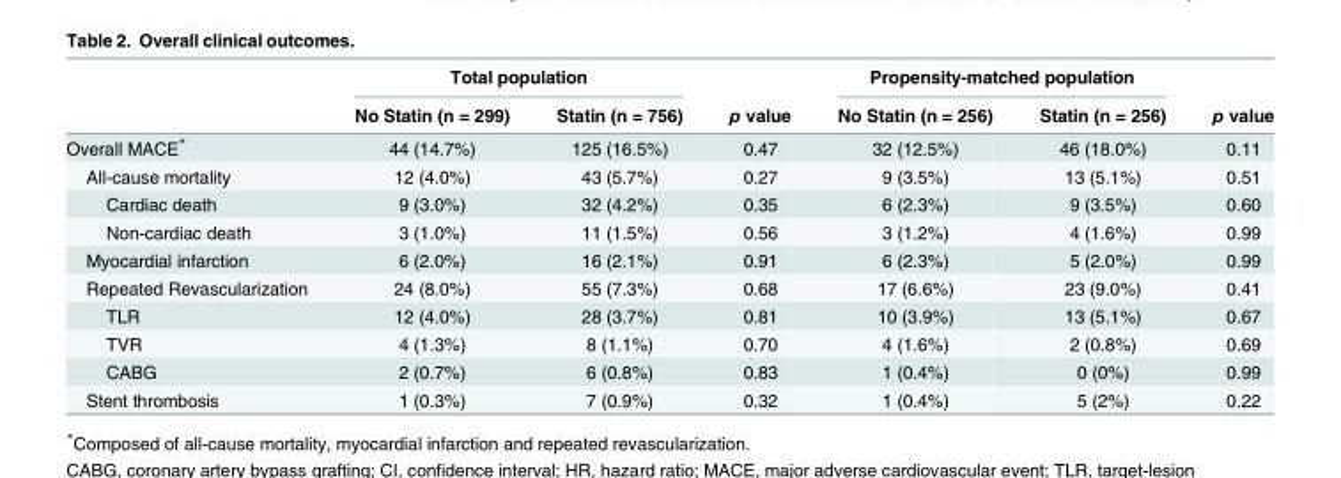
<table><thead><tr><td rowspan="2"></td><td colspan="2">Total population</td><td rowspan="2">p value</td><td colspan="2">Propensity-matched population</td><td rowspan="2">p value</td></tr><tr><td>No Statin (n = 299)</td><td>Statin (n = 756)</td><td>No Statin (n = 256)</td><td>Statin (n = 256)</td></tr></thead><tbody><tr><td>Overall MACE*</td><td>44 (14.7%)</td><td>125 (16.5%)</td><td>0.47</td><td>32 (12.5%)</td><td>46 (18.0%)</td><td>0.11</td></tr><tr><td>All-cause mortality</td><td>12 (4.0%)</td><td>43 (5.7%)</td><td>0.27</td><td>9 (3.5%)</td><td>13 (5.1%)</td><td>0.51</td></tr><tr><td>Cardiac death</td><td>9 (3.0%)</td><td>32 (4.2%)</td><td>0.35</td><td>6 (2.3%)</td><td>9 (3.5%)</td><td>0.60</td></tr><tr><td>Non-cardiac death</td><td>3 (1.0%)</td><td>11 (1.5%)</td><td>0.56</td><td>3 (1.2%)</td><td>4 (1.6%)</td><td>0.99</td></tr><tr><td>Myocardial infarction</td><td>6 (2.0%)</td><td>16 (2.1%)</td><td>0.91</td><td>6 (2.3%)</td><td>5 (2.0%)</td><td>0.99</td></tr><tr><td>Repeated Revascularization</td><td>24 (8.0%)</td><td>55 (7.3%)</td><td>0.68</td><td>17 (6.6%)</td><td>23 (9.0%)</td><td>0.41</td></tr><tr><td>TLR</td><td>12 (4.0%)</td><td>28 (3.7%)</td><td>0.81</td><td>10 (3.9%)</td><td>13 (5.1%)</td><td>0.67</td></tr><tr><td>TVR</td><td>4 (1.3%)</td><td>8 (1.1%)</td><td>0.70</td><td>4 (1.6%)</td><td>2 (0.8%)</td><td>0.69</td></tr><tr><td>CABG</td><td>2 (0.7%)</td><td>6 (0.8%)</td><td>0.83</td><td>1 (0.4%)</td><td>0 (0%)</td><td>0.99</td></tr><tr><td>Stent thrombosis</td><td>1 (0.3%)</td><td>7 (0.9%)</td><td>0.32</td><td>1 (0.4%)</td><td>5 (2%)</td><td>0.22</td></tr></tbody></table>